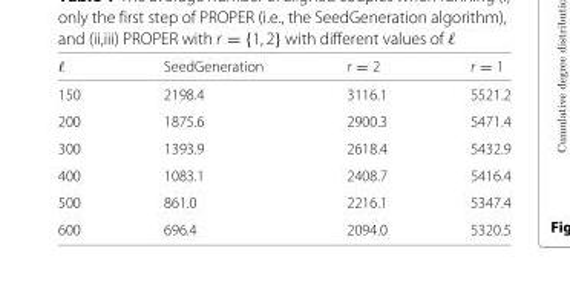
<table><thead><tr><td>ℓ</td><td>SeedGeneration</td><td>r = 2</td><td>r = 1</td></tr></thead><tbody><tr><td>150</td><td>2198.4</td><td>3116.1</td><td>5521.2</td></tr><tr><td>200</td><td>1875.6</td><td>2900.3</td><td>5471.4</td></tr><tr><td>300</td><td>1393.9</td><td>2618.4</td><td>5432.9</td></tr><tr><td>400</td><td>1083.1</td><td>2408.7</td><td>5416.4</td></tr><tr><td>500</td><td>861.0</td><td>2216.1</td><td>5347.4</td></tr><tr><td>600</td><td>696.4</td><td>2094.0</td><td>5320.5</td></tr></tbody></table>